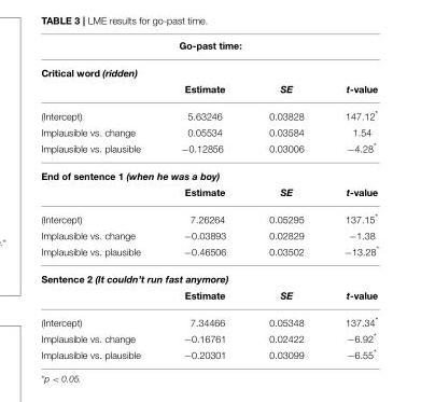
<table><thead><tr><td rowspan="2" colspan="4">Go-past time: Critical word (ridden)</td></tr><tr></tr><tr><td></td><td>Estimate</td><td>SE</td><td>t-value</td></tr></thead><tbody><tr><td>(Intercept)</td><td>5.63246</td><td>0.03828</td><td>147.12*</td></tr><tr><td>Implausible vs. change</td><td>0.05534</td><td>0.03584</td><td>1.54</td></tr><tr><td>Implausible vs. plausible</td><td>−0.12856</td><td>0.03006</td><td>−4.28*</td></tr><tr><td colspan="4">End of sentence 1 (when he was a boy)</td></tr><tr><td></td><td>Estimate</td><td>SE</td><td>t-value</td></tr><tr><td>(Intercept)</td><td>7.26264</td><td>0.05295</td><td>137.15*</td></tr><tr><td>Implausible vs. change</td><td>−0.03893</td><td>0.02829</td><td>−1.38</td></tr><tr><td>Implausible vs. plausible</td><td>−0.46506</td><td>0.03502</td><td>−13.28*</td></tr><tr><td colspan="4">Sentence 2 (It couldn’t run fast anymore)</td></tr><tr><td></td><td>Estimate</td><td>SE</td><td>t-value</td></tr><tr><td>(Intercept)</td><td>7.34466</td><td>0.05348</td><td>137.34*</td></tr><tr><td>Implausible vs. change</td><td>−0.16761</td><td>0.02422</td><td>−6.92*</td></tr><tr><td>Implausible vs. plausible</td><td>−0.20301</td><td>0.03099</td><td>−6.55*</td></tr></tbody></table>